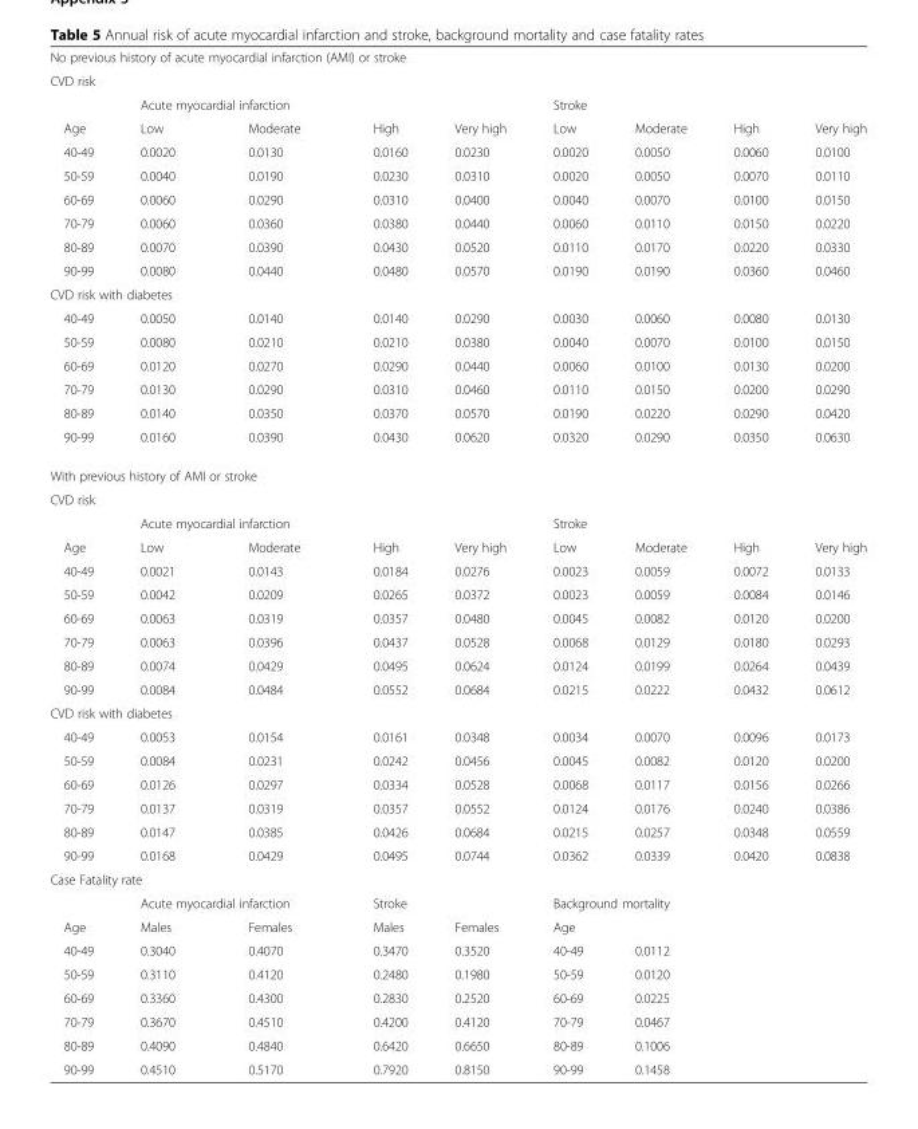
<table><tbody><tr><td colspan="9">No previous history of acute myocardial infarction (AMI) or stroke</td></tr><tr><td colspan="9">CVD risk</td></tr><tr><td></td><td colspan="4">Acute myocardial infarction</td><td colspan="4">Stroke</td></tr><tr><td>Age</td><td>Low</td><td>Moderate</td><td>High</td><td>Very high</td><td>Low</td><td>Moderate</td><td>High</td><td>Very high</td></tr><tr><td>40-49</td><td>0.0020</td><td>0.0130</td><td>0.0160</td><td>0.0230</td><td>0.0020</td><td>0.0050</td><td>0.0060</td><td>0.0100</td></tr><tr><td>50-59</td><td>0.0040</td><td>0.0190</td><td>0.0230</td><td>0.0310</td><td>0.0020</td><td>0.0050</td><td>0.0070</td><td>0.0110</td></tr><tr><td>60-69</td><td>0.0060</td><td>0.0290</td><td>0.0310</td><td>0.0400</td><td>0.0040</td><td>0.0070</td><td>0.0100</td><td>0.0150</td></tr><tr><td>70-79</td><td>0.0060</td><td>0.0360</td><td>0.0380</td><td>0.0440</td><td>0.0060</td><td>0.0110</td><td>0.0150</td><td>0.0220</td></tr><tr><td>80-89</td><td>0.0070</td><td>0.0390</td><td>0.0430</td><td>0.0520</td><td>0.0110</td><td>0.0170</td><td>0.0220</td><td>0.0330</td></tr><tr><td>90-99</td><td>0.0080</td><td>0.0440</td><td>0.0480</td><td>0.0570</td><td>0.0190</td><td>0.0190</td><td>0.0360</td><td>0.0460</td></tr><tr><td colspan="9">CVD risk with diabetes</td></tr><tr><td>40-49</td><td>0.0050</td><td>0.0140</td><td>0.0140</td><td>0.0290</td><td>0.0030</td><td>0.0060</td><td>0.0080</td><td>0.0130</td></tr><tr><td>50-59</td><td>0.0080</td><td>0.0210</td><td>0.0210</td><td>0.0380</td><td>0.0040</td><td>0.0070</td><td>0.0100</td><td>0.0150</td></tr><tr><td>60-69</td><td>0.0120</td><td>0.0270</td><td>0.0290</td><td>0.0440</td><td>0.0060</td><td>0.0100</td><td>0.0130</td><td>0.0200</td></tr><tr><td>70-79</td><td>0.0130</td><td>0.0290</td><td>0.0310</td><td>0.0460</td><td>0.0110</td><td>0.0150</td><td>0.0200</td><td>0.0290</td></tr><tr><td>80-89</td><td>0.0140</td><td>0.0350</td><td>0.0370</td><td>0.0570</td><td>0.0190</td><td>0.0220</td><td>0.0290</td><td>0.0420</td></tr><tr><td>90-99</td><td>0.0160</td><td>0.0390</td><td>0.0430</td><td>0.0620</td><td>0.0320</td><td>0.0290</td><td>0.0350</td><td>0.0630</td></tr><tr><td colspan="9">With previous history of AMI or stroke</td></tr><tr><td colspan="9">CVD risk</td></tr><tr><td></td><td colspan="4">Acute myocardial infarction</td><td colspan="4">Stroke</td></tr><tr><td>Age</td><td>Low</td><td>Moderate</td><td>High</td><td>Very high</td><td>Low</td><td>Moderate</td><td>High</td><td>Very high</td></tr><tr><td>40-49</td><td>0.0021</td><td>0.0143</td><td>0.0184</td><td>0.0276</td><td>0.0023</td><td>0.0059</td><td>0.0072</td><td>0.0133</td></tr><tr><td>50-59</td><td>0.0042</td><td>0.0209</td><td>0.0265</td><td>0.0372</td><td>0.0023</td><td>0.0059</td><td>0.0084</td><td>0.0146</td></tr><tr><td>60-69</td><td>0.0063</td><td>0.0319</td><td>0.0357</td><td>0.0480</td><td>0.0045</td><td>0.0082</td><td>0.0120</td><td>0.0200</td></tr><tr><td>70-79</td><td>0.0063</td><td>0.0396</td><td>0.0437</td><td>0.0528</td><td>0.0068</td><td>0.0129</td><td>0.0180</td><td>0.0293</td></tr><tr><td>80-89</td><td>0.0074</td><td>0.0429</td><td>0.0495</td><td>0.0624</td><td>0.0124</td><td>0.0199</td><td>0.0264</td><td>0.0439</td></tr><tr><td>90-99</td><td>0.0084</td><td>0.0484</td><td>0.0552</td><td>0.0684</td><td>0.0215</td><td>0.0222</td><td>0.0432</td><td>0.0612</td></tr><tr><td colspan="9">CVD risk with diabetes</td></tr><tr><td>40-49</td><td>0.0053</td><td>0.0154</td><td>0.0161</td><td>0.0348</td><td>0.0034</td><td>0.0070</td><td>0.0096</td><td>0.0173</td></tr><tr><td>50-59</td><td>0.0084</td><td>0.0231</td><td>0.0242</td><td>0.0456</td><td>0.0045</td><td>0.0082</td><td>0.0120</td><td>0.0200</td></tr><tr><td>60-69</td><td>0.0126</td><td>0.0297</td><td>0.0334</td><td>0.0528</td><td>0.0068</td><td>0.0117</td><td>0.0156</td><td>0.0266</td></tr><tr><td>70-79</td><td>0.0137</td><td>0.0319</td><td>0.0357</td><td>0.0552</td><td>0.0124</td><td>0.0176</td><td>0.0240</td><td>0.0386</td></tr><tr><td>80-89</td><td>0.0147</td><td>0.0385</td><td>0.0426</td><td>0.0684</td><td>0.0215</td><td>0.0257</td><td>0.0348</td><td>0.0559</td></tr><tr><td>90-99</td><td>0.0168</td><td>0.0429</td><td>0.0495</td><td>0.0744</td><td>0.0362</td><td>0.0339</td><td>0.0420</td><td>0.0838</td></tr><tr><td colspan="9">Case Fatality rate</td></tr><tr><td></td><td colspan="2">Acute myocardial infarction</td><td colspan="2">Stroke</td><td colspan="4">Background mortality</td></tr><tr><td>Age</td><td>Males</td><td>Females</td><td>Males</td><td>Females</td><td>Age</td><td></td><td></td><td></td></tr><tr><td>40-49</td><td>0.3040</td><td>0.4070</td><td>0.3470</td><td>0.3520</td><td>40-49</td><td>0.0112</td><td></td><td></td></tr><tr><td>50-59</td><td>0.3110</td><td>0.4120</td><td>0.2480</td><td>0.1980</td><td>50-59</td><td>0.0120</td><td></td><td></td></tr><tr><td>60-69</td><td>0.3360</td><td>0.4300</td><td>0.2830</td><td>0.2520</td><td>60-69</td><td>0.0225</td><td></td><td></td></tr><tr><td>70-79</td><td>0.3670</td><td>0.4510</td><td>0.4200</td><td>0.4120</td><td>70-79</td><td>0.0467</td><td></td><td></td></tr><tr><td>80-89</td><td>0.4090</td><td>0.4840</td><td>0.6420</td><td>0.6650</td><td>80-89</td><td>0.1006</td><td></td><td></td></tr><tr><td>90-99</td><td>0.4510</td><td>0.5170</td><td>0.7920</td><td>0.8150</td><td>90-99</td><td>0.1458</td><td></td><td></td></tr></tbody></table>